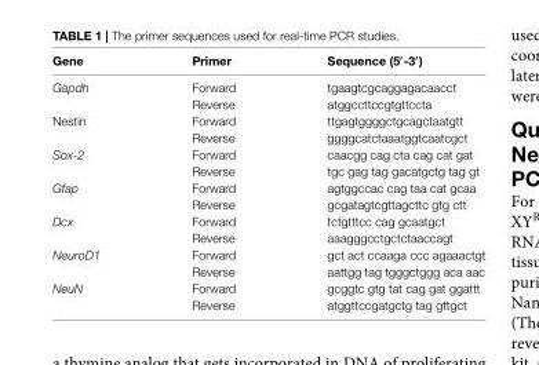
<table><thead><tr><td>Gene</td><td>Primer</td><td>Sequence (5′-3′)</td></tr></thead><tbody><tr><td rowspan="2">Gapdh</td><td>Forward</td><td>tgaagtcgcaggagacaacct</td></tr><tr><td>Reverse</td><td>atggccttccgtgttccta</td></tr><tr><td rowspan="2">Nestin</td><td>Forward</td><td>ttgagtggggctgcagctaatgtt</td></tr><tr><td>Reverse</td><td>ggggcatctaaatggtcaatcgct</td></tr><tr><td rowspan="2">Sox-2</td><td>Forward</td><td>caacgg cag cta cag cat gat</td></tr><tr><td>Reverse</td><td>tgc gag tag gacatgctg tag gt</td></tr><tr><td rowspan="2">Gfap</td><td>Forward</td><td>agtggccac cag taa cat gcaa</td></tr><tr><td>Reverse</td><td>gcgatagtcgttagcttc gtg ctt</td></tr><tr><td rowspan="2">Dcx</td><td>Forward</td><td>tctgtttcc cag gcaatgct</td></tr><tr><td>Reverse</td><td>aaagggcctgctctaaccagt</td></tr><tr><td rowspan="2">NeuroD1</td><td>Forward</td><td>gct act ccaaga ccc agaaactgt</td></tr><tr><td>Reverse</td><td>aattgg tag tgggctggg aca aac</td></tr><tr><td rowspan="2">NeuN</td><td>Forward</td><td>gcggtc gtg tat cag gat ggattt</td></tr><tr><td>Reverse</td><td>atggttccgatgctg tag gttgct</td></tr></tbody></table>